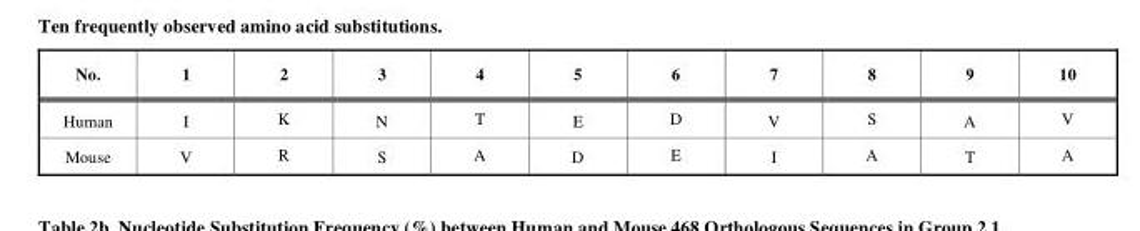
<table><thead><tr><td>No.</td><td>1</td><td>2</td><td>3</td><td>4</td><td>5</td><td>6</td><td>7</td><td>8</td><td>9</td><td>10</td></tr></thead><tbody><tr><td>Human</td><td>I</td><td>K</td><td>N</td><td>T</td><td>E</td><td>D</td><td>V</td><td>S</td><td>A</td><td>V</td></tr><tr><td>Mouse</td><td>V</td><td>R</td><td>S</td><td>A</td><td>D</td><td>E</td><td>I</td><td>A</td><td>T</td><td>A</td></tr></tbody></table>